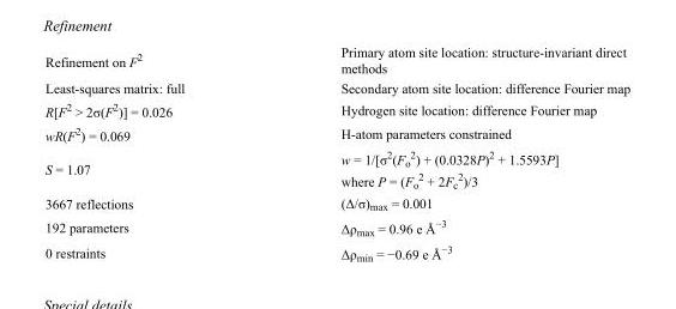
<table><tbody><tr><td>Refinement on F<sup>2</sup></td><td>Primary atom site location: structure-invariant direct methods</td></tr><tr><td>Least-squares matrix: full</td><td>Secondary atom site location: difference Fourier map</td></tr><tr><td>R[F<sup>2</sup> &gt; 2σ(F<sup>2</sup>)] = 0.026</td><td>Hydrogen site location: difference Fourier map</td></tr><tr><td>wR(F<sup>2</sup>) = 0.069</td><td>H-atom parameters constrained</td></tr><tr><td>S = 1.07</td><td>w = 1/[σ<sup>2</sup>(F<sub>o</sub> <sup>2</sup>) + (0.0328P)<sup>2</sup> + 1.5593P] where P = (F<sub>o</sub> <sup>2</sup> + 2F<sub>c</sub> <sup>2</sup>)/3</td></tr><tr><td>3667 reflections</td><td>(Δ/σ)<sub>max</sub> = 0.001</td></tr><tr><td>192 parameters</td><td>Δρ<sub>max</sub> = 0.96 e Å<sup>−3</sup></td></tr><tr><td>0 restraints</td><td>Δρ<sub>min</sub> = −0.69 e Å<sup>−3</sup></td></tr></tbody></table>